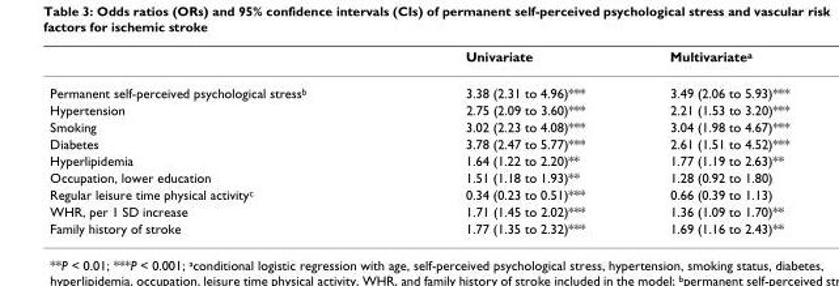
<table><thead><tr><td></td><td>Univariate</td><td>Multivariate<sup>a</sup></td></tr></thead><tbody><tr><td>Permanent self-perceived psychological stress<sup>b</sup></td><td>3.38 (2.31 to 4.96)***</td><td>3.49 (2.06 to 5.93)***</td></tr><tr><td>Hypertension</td><td>2.75 (2.09 to 3.60)***</td><td>2.21 (1.53 to 3.20)***</td></tr><tr><td>Smoking</td><td>3.02 (2.23 to 4.08)***</td><td>3.04 (1.98 to 4.67)***</td></tr><tr><td>Diabetes</td><td>3.78 (2.47 to 5.77)***</td><td>2.61 (1.51 to 4.52)***</td></tr><tr><td>Hyperlipidemia</td><td>1.64 (1.22 to 2.20)**</td><td>1.77 (1.19 to 2.63)**</td></tr><tr><td>Occupation, lower education</td><td>1.51 (1.18 to 1.93)**</td><td>1.28 (0.92 to 1.80)</td></tr><tr><td>Regular leisure time physical activity<sup>c</sup></td><td>0.34 (0.23 to 0.51)***</td><td>0.66 (0.39 to 1.13)</td></tr><tr><td>WHR, per 1 SD increase</td><td>1.71 (1.45 to 2.02)***</td><td>1.36 (1.09 to 1.70)**</td></tr><tr><td>Family history of stroke</td><td>1.77 (1.35 to 2.32)***</td><td>1.69 (1.16 to 2.43)**</td></tr></tbody></table>